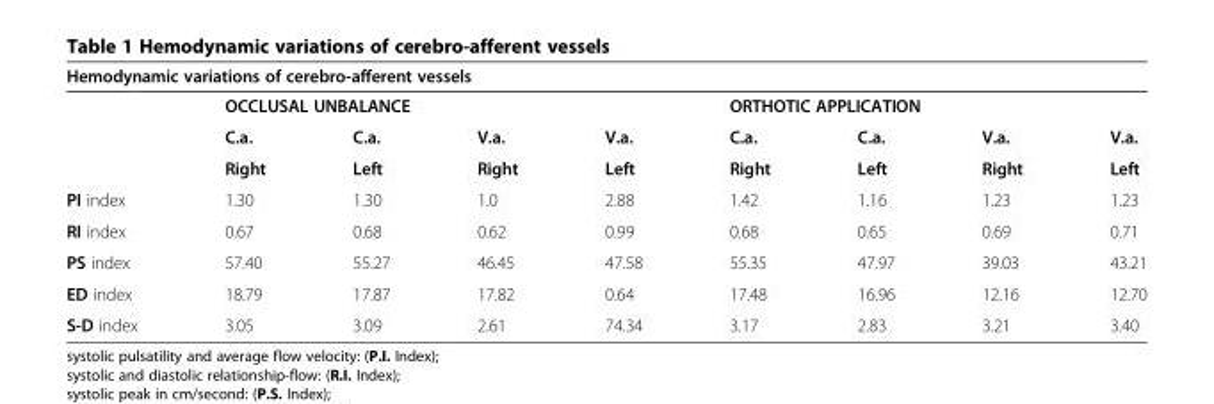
<table><thead><tr><td colspan="9">Hemodynamic variations of cerebro-afferent vessels</td></tr><tr><td rowspan="2"></td><td colspan="4">OCCLUSAL UNBALANCE</td><td colspan="4">ORTHOTIC APPLICATION</td></tr><tr><td>C.a.</td><td>C.a.</td><td>V.a.</td><td>V.a.</td><td>C.a.</td><td>C.a.</td><td>V.a.</td><td>V.a.</td></tr></thead><tbody><tr><td></td><td>Right</td><td>Left</td><td>Right</td><td>Left</td><td>Right</td><td>Left</td><td>Right</td><td>Left</td></tr><tr><td>PI index</td><td>1.30</td><td>1.30</td><td>1.0</td><td>2.88</td><td>1.42</td><td>1.16</td><td>1.23</td><td>1.23</td></tr><tr><td>RI index</td><td>0.67</td><td>0.68</td><td>0.62</td><td>0.99</td><td>0.68</td><td>0.65</td><td>0.69</td><td>0.71</td></tr><tr><td>PS index</td><td>57.40</td><td>55.27</td><td>46.45</td><td>47.58</td><td>55.35</td><td>47.97</td><td>39.03</td><td>43.21</td></tr><tr><td>ED index</td><td>18.79</td><td>17.87</td><td>17.82</td><td>0.64</td><td>17.48</td><td>16.96</td><td>12.16</td><td>12.70</td></tr><tr><td>S-D index</td><td>3.05</td><td>3.09</td><td>2.61</td><td>74.34</td><td>3.17</td><td>2.83</td><td>3.21</td><td>3.40</td></tr></tbody></table>